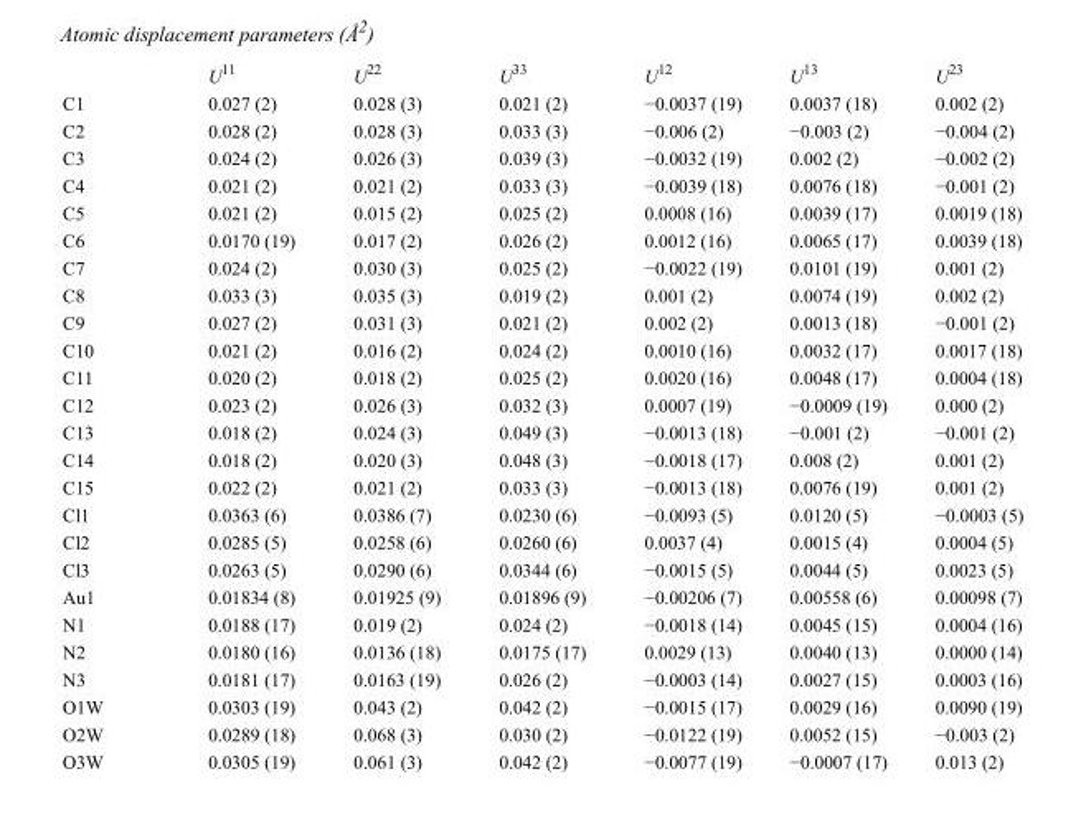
<table><thead><tr><td></td><td>U<sup>11</sup></td><td>U<sup>22</sup></td><td>U<sup>33</sup></td><td>U<sup>12</sup></td><td>U<sup>13</sup></td><td>U<sup>23</sup></td></tr></thead><tbody><tr><td>C1</td><td>0.027 (2)</td><td>0.028 (3)</td><td>0.021 (2)</td><td>−0.0037 (19)</td><td>0.0037 (18)</td><td>0.002 (2)</td></tr><tr><td>C2</td><td>0.028 (2)</td><td>0.028 (3)</td><td>0.033 (3)</td><td>−0.006 (2)</td><td>−0.003 (2)</td><td>−0.004 (2)</td></tr><tr><td>C3</td><td>0.024 (2)</td><td>0.026 (3)</td><td>0.039 (3)</td><td>−0.0032 (19)</td><td>0.002 (2)</td><td>−0.002 (2)</td></tr><tr><td>C4</td><td>0.021 (2)</td><td>0.021 (2)</td><td>0.033 (3)</td><td>−0.0039 (18)</td><td>0.0076 (18)</td><td>−0.001 (2)</td></tr><tr><td>C5</td><td>0.021 (2)</td><td>0.015 (2)</td><td>0.025 (2)</td><td>0.0008 (16)</td><td>0.0039 (17)</td><td>0.0019 (18)</td></tr><tr><td>C6</td><td>0.0170 (19)</td><td>0.017 (2)</td><td>0.026 (2)</td><td>0.0012 (16)</td><td>0.0065 (17)</td><td>0.0039 (18)</td></tr><tr><td>C7</td><td>0.024 (2)</td><td>0.030 (3)</td><td>0.025 (2)</td><td>−0.0022 (19)</td><td>0.0101 (19)</td><td>0.001 (2)</td></tr><tr><td>C8</td><td>0.033 (3)</td><td>0.035 (3)</td><td>0.019 (2)</td><td>0.001 (2)</td><td>0.0074 (19)</td><td>0.002 (2)</td></tr><tr><td>C9</td><td>0.027 (2)</td><td>0.031 (3)</td><td>0.021 (2)</td><td>0.002 (2)</td><td>0.0013 (18)</td><td>−0.001 (2)</td></tr><tr><td>C10</td><td>0.021 (2)</td><td>0.016 (2)</td><td>0.024 (2)</td><td>0.0010 (16)</td><td>0.0032 (17)</td><td>0.0017 (18)</td></tr><tr><td>C11</td><td>0.020 (2)</td><td>0.018 (2)</td><td>0.025 (2)</td><td>0.0020 (16)</td><td>0.0048 (17)</td><td>0.0004 (18)</td></tr><tr><td>C12</td><td>0.023 (2)</td><td>0.026 (3)</td><td>0.032 (3)</td><td>0.0007 (19)</td><td>−0.0009 (19)</td><td>0.000 (2)</td></tr><tr><td>C13</td><td>0.018 (2)</td><td>0.024 (3)</td><td>0.049 (3)</td><td>−0.0013 (18)</td><td>−0.001 (2)</td><td>−0.001 (2)</td></tr><tr><td>C14</td><td>0.018 (2)</td><td>0.020 (3)</td><td>0.048 (3)</td><td>−0.0018 (17)</td><td>0.008 (2)</td><td>0.001 (2)</td></tr><tr><td>C15</td><td>0.022 (2)</td><td>0.021 (2)</td><td>0.033 (3)</td><td>−0.0013 (18)</td><td>0.0076 (19)</td><td>0.001 (2)</td></tr><tr><td>Cl1</td><td>0.0363 (6)</td><td>0.0386 (7)</td><td>0.0230 (6)</td><td>−0.0093 (5)</td><td>0.0120 (5)</td><td>−0.0003 (5)</td></tr><tr><td>Cl2</td><td>0.0285 (5)</td><td>0.0258 (6)</td><td>0.0260 (6)</td><td>0.0037 (4)</td><td>0.0015 (4)</td><td>0.0004 (5)</td></tr><tr><td>Cl3</td><td>0.0263 (5)</td><td>0.0290 (6)</td><td>0.0344 (6)</td><td>−0.0015 (5)</td><td>0.0044 (5)</td><td>0.0023 (5)</td></tr><tr><td>Au1</td><td>0.01834 (8)</td><td>0.01925 (9)</td><td>0.01896 (9)</td><td>−0.00206 (7)</td><td>0.00558 (6)</td><td>0.00098 (7)</td></tr><tr><td>N1</td><td>0.0188 (17)</td><td>0.019 (2)</td><td>0.024 (2)</td><td>−0.0018 (14)</td><td>0.0045 (15)</td><td>0.0004 (16)</td></tr><tr><td>N2</td><td>0.0180 (16)</td><td>0.0136 (18)</td><td>0.0175 (17)</td><td>0.0029 (13)</td><td>0.0040 (13)</td><td>0.0000 (14)</td></tr><tr><td>N3</td><td>0.0181 (17)</td><td>0.0163 (19)</td><td>0.026 (2)</td><td>−0.0003 (14)</td><td>0.0027 (15)</td><td>0.0003 (16)</td></tr><tr><td>O1W</td><td>0.0303 (19)</td><td>0.043 (2)</td><td>0.042 (2)</td><td>−0.0015 (17)</td><td>0.0029 (16)</td><td>0.0090 (19)</td></tr><tr><td>O2W</td><td>0.0289 (18)</td><td>0.068 (3)</td><td>0.030 (2)</td><td>−0.0122 (19)</td><td>0.0052 (15)</td><td>−0.003 (2)</td></tr><tr><td>O3W</td><td>0.0305 (19)</td><td>0.061 (3)</td><td>0.042 (2)</td><td>−0.0077 (19)</td><td>−0.0007 (17)</td><td>0.013 (2)</td></tr></tbody></table>